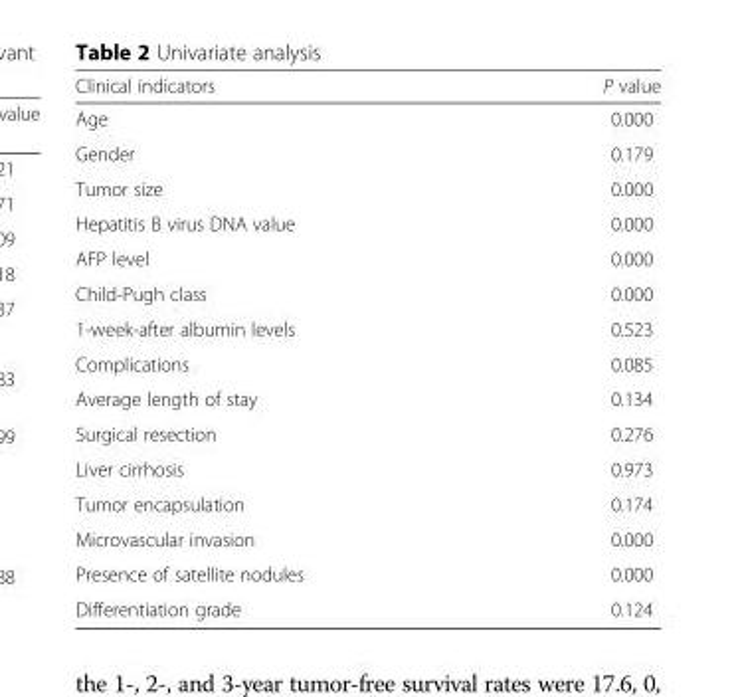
<table><thead><tr><td>Clinical indicators</td><td>P value</td></tr></thead><tbody><tr><td>Age</td><td>0.000</td></tr><tr><td>Gender</td><td>0.179</td></tr><tr><td>Tumor size</td><td>0.000</td></tr><tr><td>Hepatitis B virus DNA value</td><td>0.000</td></tr><tr><td>AFP level</td><td>0.000</td></tr><tr><td>Child-Pugh class</td><td>0.000</td></tr><tr><td>1-week-after albumin levels</td><td>0.523</td></tr><tr><td>Complications</td><td>0.085</td></tr><tr><td>Average length of stay</td><td>0.134</td></tr><tr><td>Surgical resection</td><td>0.276</td></tr><tr><td>Liver cirrhosis</td><td>0.973</td></tr><tr><td>Tumor encapsulation</td><td>0.174</td></tr><tr><td>Microvascular invasion</td><td>0.000</td></tr><tr><td>Presence of satellite nodules</td><td>0.000</td></tr><tr><td>Differentiation grade</td><td>0.124</td></tr></tbody></table>